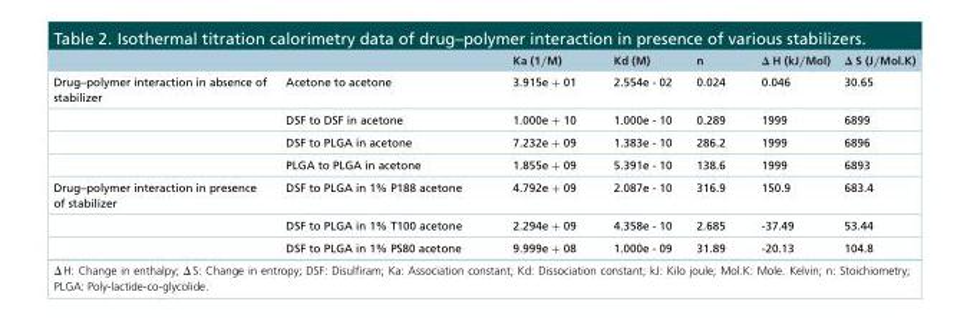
<table><thead><tr><td></td><td></td><td>Ka (1/M)</td><td>Kd (M)</td><td>n</td><td>Δ H (kJ/Mol)</td><td>Δ S (J/Mol.K)</td></tr></thead><tbody><tr><td rowspan="4">Drug–polymer interaction in absence of stabilizer</td><td>Acetone to acetone</td><td>3.915e + 01</td><td>2.554e - 02</td><td>0.024</td><td>0.046</td><td>30.65</td></tr><tr><td>DSF to DSF in acetone</td><td>1.000e + 10</td><td>1.000e - 10</td><td>0.289</td><td>1999</td><td>6899</td></tr><tr><td>DSF to PLGA in acetone</td><td>7.232e + 09</td><td>1.383e - 10</td><td>286.2</td><td>1999</td><td>6896</td></tr><tr><td>PLGA to PLGA in acetone</td><td>1.855e + 09</td><td>5.391e - 10</td><td>138.6</td><td>1999</td><td>6893</td></tr><tr><td rowspan="3">Drug–polymer interaction in presence of stabilizer</td><td>DSF to PLGA in 1% P188 acetone</td><td>4.792e + 09</td><td>2.087e - 10</td><td>316.9</td><td>150.9</td><td>683.4</td></tr><tr><td>DSF to PLGA in 1% T100 acetone</td><td>2.294e + 09</td><td>4.358e - 10</td><td>2.685</td><td>-37.49</td><td>53.44</td></tr><tr><td>DSF to PLGA in 1% PS80 acetone</td><td>9.999e + 08</td><td>1.000e - 09</td><td>31.89</td><td>-20.13</td><td>104.8</td></tr></tbody></table>